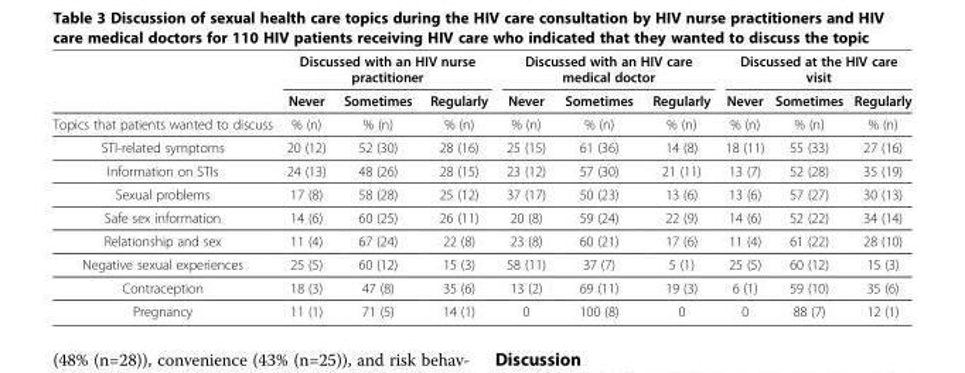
<table><thead><tr><td rowspan="2"></td><td colspan="3">Discussed with an HIV nurse practitioner</td><td colspan="3">Discussed with an HIV care medical doctor</td><td colspan="3">Discussed at the HIV care visit</td></tr><tr><td>Never</td><td>Sometimes</td><td>Regularly</td><td>Never</td><td>Sometimes</td><td>Regularly</td><td>Never</td><td>Sometimes</td><td>Regularly</td></tr></thead><tbody><tr><td>Topics that patients wanted to discuss</td><td>% (n)</td><td>% (n)</td><td>% (n)</td><td>% (n)</td><td>% (n)</td><td>% (n)</td><td>% (n)</td><td>% (n)</td><td>% (n)</td></tr><tr><td>STI-related symptoms</td><td>20 (12)</td><td>52 (30)</td><td>28 (16)</td><td>25 (15)</td><td>61 (36)</td><td>14 (8)</td><td>18 (11)</td><td>55 (33)</td><td>27 (16)</td></tr><tr><td>Information on STIs</td><td>24 (13)</td><td>48 (26)</td><td>28 (15)</td><td>23 (12)</td><td>57 (30)</td><td>21 (11)</td><td>13 (7)</td><td>52 (28)</td><td>35 (19)</td></tr><tr><td>Sexual problems</td><td>17 (8)</td><td>58 (28)</td><td>25 (12)</td><td>37 (17)</td><td>50 (23)</td><td>13 (6)</td><td>13 (6)</td><td>57 (27)</td><td>30 (13)</td></tr><tr><td>Safe sex information</td><td>14 (6)</td><td>60 (25)</td><td>26 (11)</td><td>20 (8)</td><td>59 (24)</td><td>22 (9)</td><td>14 (6)</td><td>52 (22)</td><td>34 (14)</td></tr><tr><td>Relationship and sex</td><td>11 (4)</td><td>67 (24)</td><td>22 (8)</td><td>23 (8)</td><td>60 (21)</td><td>17 (6)</td><td>11 (4)</td><td>61 (22)</td><td>28 (10)</td></tr><tr><td>Negative sexual experiences</td><td>25 (5)</td><td>60 (12)</td><td>15 (3)</td><td>58 (11)</td><td>37 (7)</td><td>5 (1)</td><td>25 (5)</td><td>60 (12)</td><td>15 (3)</td></tr><tr><td>Contraception</td><td>18 (3)</td><td>47 (8)</td><td>35 (6)</td><td>13 (2)</td><td>69 (11)</td><td>19 (3)</td><td>6 (1)</td><td>59 (10)</td><td>35 (6)</td></tr><tr><td>Pregnancy</td><td>11 (1)</td><td>71 (5)</td><td>14 (1)</td><td>0</td><td>100 (8)</td><td>0</td><td>0</td><td>88 (7)</td><td>12 (1)</td></tr></tbody></table>